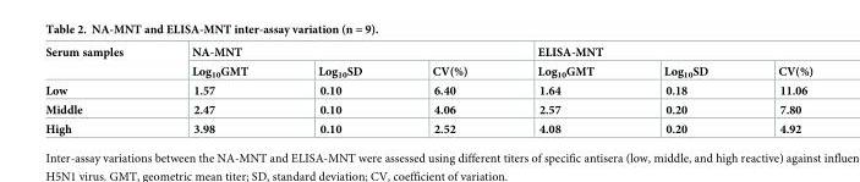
<table><thead><tr><td rowspan="2">Serum samples</td><td colspan="3">NA-MNT</td><td colspan="3">ELISA-MNT</td></tr><tr><td>Log<sub>10</sub>GMT</td><td>Log<sub>10</sub>SD</td><td>CV(%)</td><td>Log<sub>10</sub>GMT</td><td>Log<sub>10</sub>SD</td><td>CV(%)</td></tr></thead><tbody><tr><td>Low</td><td>1.57</td><td>0.10</td><td>6.40</td><td>1.64</td><td>0.18</td><td>11.06</td></tr><tr><td>Middle</td><td>2.47</td><td>0.10</td><td>4.06</td><td>2.57</td><td>0.20</td><td>7.80</td></tr><tr><td>High</td><td>3.98</td><td>0.10</td><td>2.52</td><td>4.08</td><td>0.20</td><td>4.92</td></tr></tbody></table>